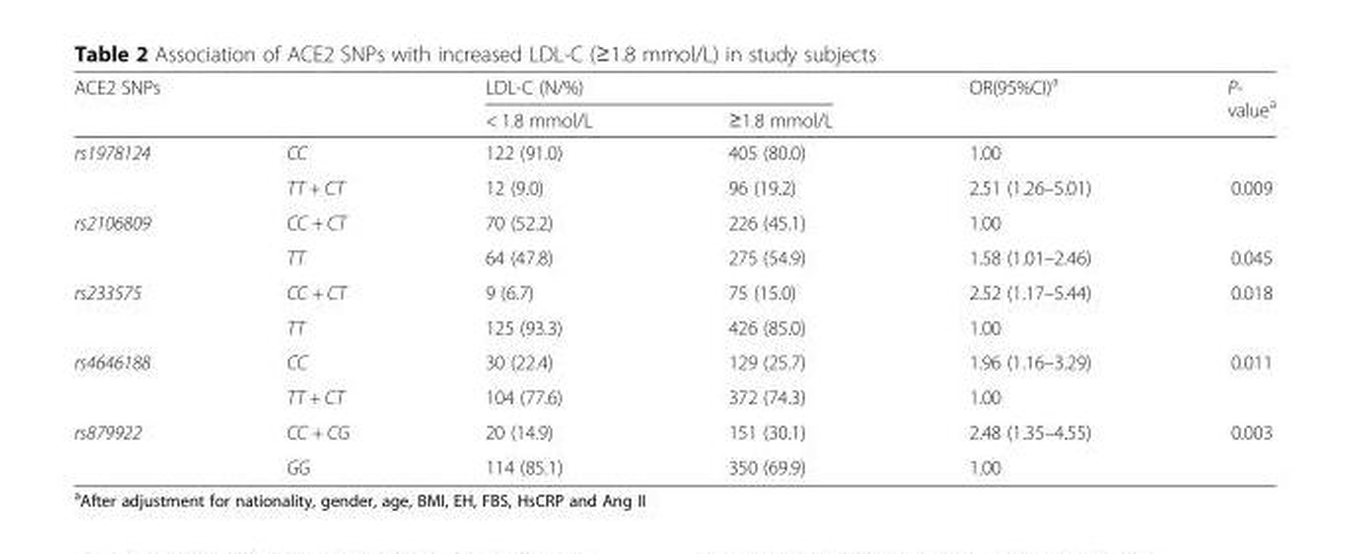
<table><thead><tr><td rowspan="2" colspan="2">ACE2 SNPs</td><td colspan="2">LDL-C (N/%)</td><td rowspan="3">OR(95%CI)<sup>a</sup> 1.00</td><td rowspan="3">P- value<sup>a</sup></td></tr><tr><td rowspan="2">&lt; 1.8 mmol/L 122 (91.0)</td><td rowspan="2">≥1.8 mmol/L 405 (80.0)</td></tr><tr><td>rs1978124</td><td>CC</td></tr></thead><tbody><tr><td></td><td>TT + CT</td><td>12 (9.0)</td><td>96 (19.2)</td><td>2.51 (1.26–5.01)</td><td>0.009</td></tr><tr><td rowspan="2">rs2106809</td><td>CC + CT</td><td>70 (52.2)</td><td>226 (45.1)</td><td>1.00</td><td></td></tr><tr><td>TT</td><td>64 (47.8)</td><td>275 (54.9)</td><td>1.58 (1.01–2.46)</td><td>0.045</td></tr><tr><td rowspan="2">rs233575</td><td>CC + CT</td><td>9 (6.7)</td><td>75 (15.0)</td><td>2.52 (1.17–5.44)</td><td>0.018</td></tr><tr><td>TT</td><td>125 (93.3)</td><td>426 (85.0)</td><td>1.00</td><td></td></tr><tr><td rowspan="2">rs4646188</td><td>CC</td><td>30 (22.4)</td><td>129 (25.7)</td><td>1.96 (1.16–3.29)</td><td>0.011</td></tr><tr><td>TT + CT</td><td>104 (77.6)</td><td>372 (74.3)</td><td>1.00</td><td></td></tr><tr><td rowspan="2">rs879922</td><td>CC + CG</td><td>20 (14.9)</td><td>151 (30.1)</td><td>2.48 (1.35–4.55)</td><td>0.003</td></tr><tr><td>GG</td><td>114 (85.1)</td><td>350 (69.9)</td><td>1.00</td><td></td></tr></tbody></table>